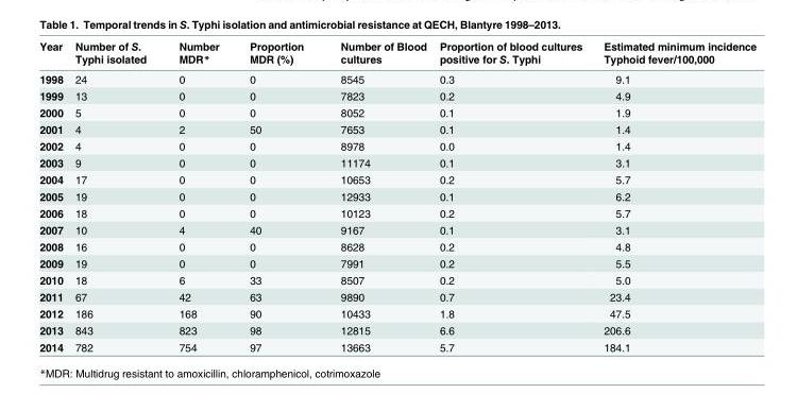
<table><thead><tr><td>Year</td><td>Number of S. Typhi isolated</td><td>Number MDR*</td><td>Proportion MDR (%)</td><td>Number of Blood cultures</td><td>Proportion of blood cultures positive for S. Typhi</td><td>Estimated minimum incidence Typhoid fever/100,000</td></tr></thead><tbody><tr><td>1998</td><td>24</td><td>0</td><td>0</td><td>8545</td><td>0.3</td><td>9.1</td></tr><tr><td>1999</td><td>13</td><td>0</td><td>0</td><td>7823</td><td>0.2</td><td>4.9</td></tr><tr><td>2000</td><td>5</td><td>0</td><td>0</td><td>8052</td><td>0.1</td><td>1.9</td></tr><tr><td>2001</td><td>4</td><td>2</td><td>50</td><td>7653</td><td>0.1</td><td>1.4</td></tr><tr><td>2002</td><td>4</td><td>0</td><td>0</td><td>8978</td><td>0.0</td><td>1.4</td></tr><tr><td>2003</td><td>9</td><td>0</td><td>0</td><td>11174</td><td>0.1</td><td>3.1</td></tr><tr><td>2004</td><td>17</td><td>0</td><td>0</td><td>10653</td><td>0.2</td><td>5.7</td></tr><tr><td>2005</td><td>19</td><td>0</td><td>0</td><td>12933</td><td>0.1</td><td>6.2</td></tr><tr><td>2006</td><td>18</td><td>0</td><td>0</td><td>10123</td><td>0.2</td><td>5.7</td></tr><tr><td>2007</td><td>10</td><td>4</td><td>40</td><td>9167</td><td>0.1</td><td>3.1</td></tr><tr><td>2008</td><td>16</td><td>0</td><td>0</td><td>8628</td><td>0.2</td><td>4.8</td></tr><tr><td>2009</td><td>19</td><td>0</td><td>0</td><td>7991</td><td>0.2</td><td>5.5</td></tr><tr><td>2010</td><td>18</td><td>6</td><td>33</td><td>8507</td><td>0.2</td><td>5.0</td></tr><tr><td>2011</td><td>67</td><td>42</td><td>63</td><td>9890</td><td>0.7</td><td>23.4</td></tr><tr><td>2012</td><td>186</td><td>168</td><td>90</td><td>10433</td><td>1.8</td><td>47.5</td></tr><tr><td>2013</td><td>843</td><td>823</td><td>98</td><td>12815</td><td>6.6</td><td>206.6</td></tr><tr><td>2014</td><td>782</td><td>754</td><td>97</td><td>13663</td><td>5.7</td><td>184.1</td></tr></tbody></table>